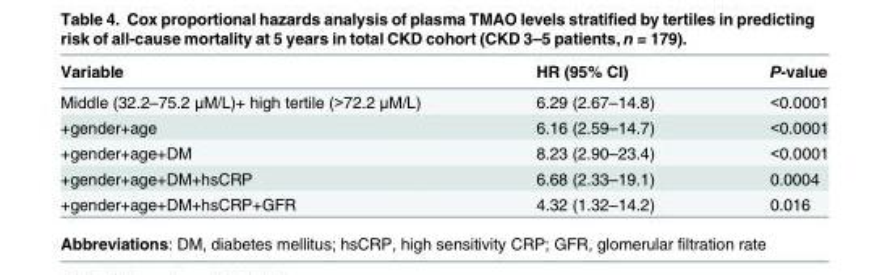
<table><thead><tr><td>Variable</td><td>HR (95% CI)</td><td>P-value</td></tr></thead><tbody><tr><td>Middle (32.2–75.2 μM/L)+ high tertile (&gt;72.2 μM/L)</td><td>6.29 (2.67–14.8)</td><td>&lt;0.0001</td></tr><tr><td>+gender+age</td><td>6.16 (2.59–14.7)</td><td>&lt;0.0001</td></tr><tr><td>+gender+age+DM</td><td>8.23 (2.90–23.4)</td><td>&lt;0.0001</td></tr><tr><td>+gender+age+DM+hsCRP</td><td>6.68 (2.33–19.1)</td><td>0.0004</td></tr><tr><td>+gender+age+DM+hsCRP+GFR</td><td>4.32 (1.32–14.2)</td><td>0.016</td></tr></tbody></table>